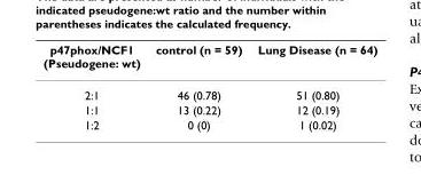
<table><thead><tr><td>p47phox/NCF1 (Pseudogene: wt)</td><td>control (n = 59)</td><td>Lung Disease (n = 64)</td></tr></thead><tbody><tr><td>2:1</td><td>46 (0.78)</td><td>51 (0.80)</td></tr><tr><td>1:1</td><td>13 (0.22)</td><td>12 (0.19)</td></tr><tr><td>1:2</td><td>0 (0)</td><td>1 (0.02)</td></tr></tbody></table>